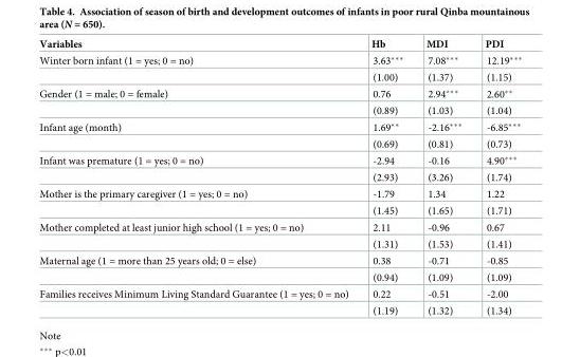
<table><thead><tr><td>Variables</td><td>Hb</td><td>MDI</td><td>PDI</td></tr></thead><tbody><tr><td rowspan="2">Winter born infant (1 = yes; 0 = no)</td><td>3.63***</td><td>7.08***</td><td>12.19***</td></tr><tr><td>(1.00)</td><td>(1.37)</td><td>(1.15)</td></tr><tr><td rowspan="2">Gender (1 = male; 0 = female)</td><td>0.76</td><td>2.94***</td><td>2.60**</td></tr><tr><td>(0.89)</td><td>(1.03)</td><td>(1.04)</td></tr><tr><td rowspan="2">Infant age (month)</td><td>1.69**</td><td>-2.16***</td><td>-6.85***</td></tr><tr><td>(0.69)</td><td>(0.81)</td><td>(0.73)</td></tr><tr><td rowspan="2">Infant was premature (1 = yes; 0 = no)</td><td>-2.94</td><td>-0.16</td><td>4.90***</td></tr><tr><td>(2.93)</td><td>(3.26)</td><td>(1.74)</td></tr><tr><td rowspan="2">Mother is the primary caregiver (1 = yes; 0 = no)</td><td>-1.79</td><td>1.34</td><td>1.22</td></tr><tr><td>(1.45)</td><td>(1.65)</td><td>(1.71)</td></tr><tr><td rowspan="2">Mother completed at least junior high school (1 = yes; 0 = no)</td><td>2.11</td><td>-0.96</td><td>0.67</td></tr><tr><td>(1.31)</td><td>(1.53)</td><td>(1.41)</td></tr><tr><td rowspan="2">Maternal age (1 = more than 25 years old; 0 = else)</td><td>0.38</td><td>-0.71</td><td>-0.85</td></tr><tr><td>(0.94)</td><td>(1.09)</td><td>(1.09)</td></tr><tr><td rowspan="2">Families receives Minimum Living Standard Guarantee (1 = yes; 0 = no)</td><td>0.22</td><td>-0.51</td><td>-2.00</td></tr><tr><td>(1.19)</td><td>(1.32)</td><td>(1.34)</td></tr></tbody></table>